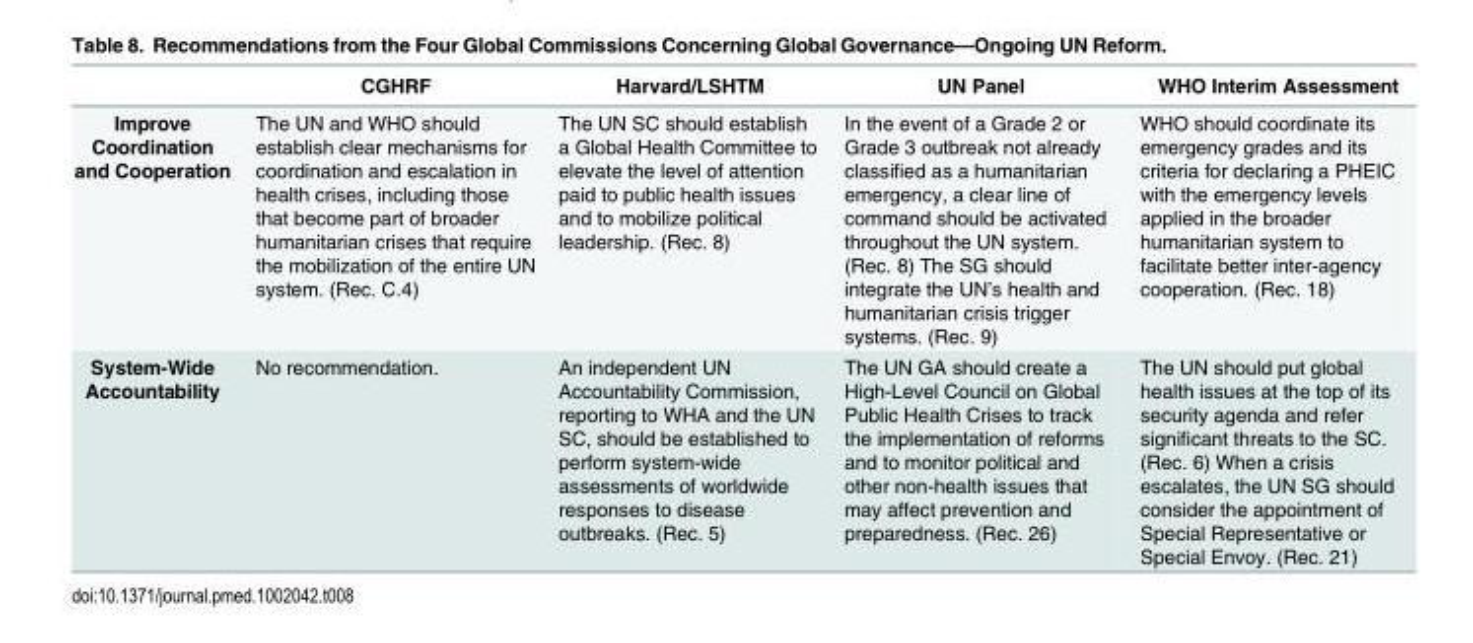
<table><thead><tr><td></td><td>CGHRF</td><td>Harvard/LSHTM</td><td>UN Panel</td><td>WHO Interim Assessment</td></tr></thead><tbody><tr><td>Improve Coordination and Cooperation</td><td>The UN and WHO should establish clear mechanisms for coordination and escalation in health crises, including those that become part of broader humanitarian crises that require the mobilization of the entire UN system. (Rec. C.4)</td><td>The UN SC should establish a Global Health Committee to elevate the level of attention paid to public health issues and to mobilize political leadership. (Rec. 8)</td><td>In the event of a Grade 2 or Grade 3 outbreak not already classified as a humanitarian emergency, a clear line of command should be activated throughout the UN system. (Rec. 8) The SG should integrate the UN’s health and humanitarian crisis trigger systems. (Rec. 9)</td><td>WHO should coordinate its emergency grades and its criteria for declaring a PHEIC with the emergency levels applied in the broader humanitarian system to facilitate better inter-agency cooperation. (Rec. 18)</td></tr><tr><td>System-Wide Accountability</td><td>No recommendation.</td><td>An independent UN Accountability Commission, reporting to WHA and the UN SC, should be established to perform system-wide assessments of worldwide responses to disease outbreaks. (Rec. 5)</td><td>The UN GA should create a High-Level Council on Global Public Health Crises to track the implementation of reforms and to monitor political and other non-health issues that may affect prevention and preparedness. (Rec. 26)</td><td>The UN should put global health issues at the top of its security agenda and refer significant threats to the SC. (Rec. 6) When a crisis escalates, the UN SG should consider the appointment of Special Representative or Special Envoy. (Rec. 21)</td></tr></tbody></table>